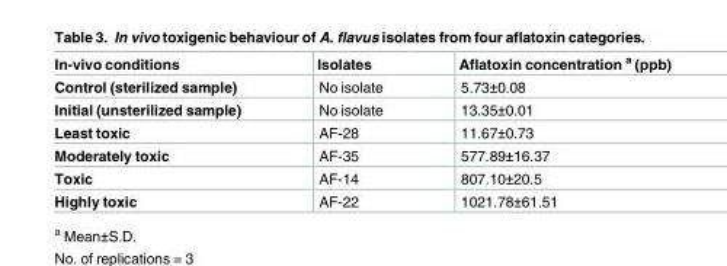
<table><thead><tr><td>In-vivo conditions</td><td>Isolates</td><td>Aflatoxin concentration <sup>a</sup> (ppb)</td></tr></thead><tbody><tr><td>Control (sterilized sample)</td><td>No isolate</td><td>5.73±0.08</td></tr><tr><td>Initial (unsterilized sample)</td><td>No isolate</td><td>13.35±0.01</td></tr><tr><td>Least toxic</td><td>AF-28</td><td>11.67±0.73</td></tr><tr><td>Moderately toxic</td><td>AF-35</td><td>577.89±16.37</td></tr><tr><td>Toxic</td><td>AF-14</td><td>807.10±20.5</td></tr><tr><td>Highly toxic</td><td>AF-22</td><td>1021.78±61.51</td></tr></tbody></table>